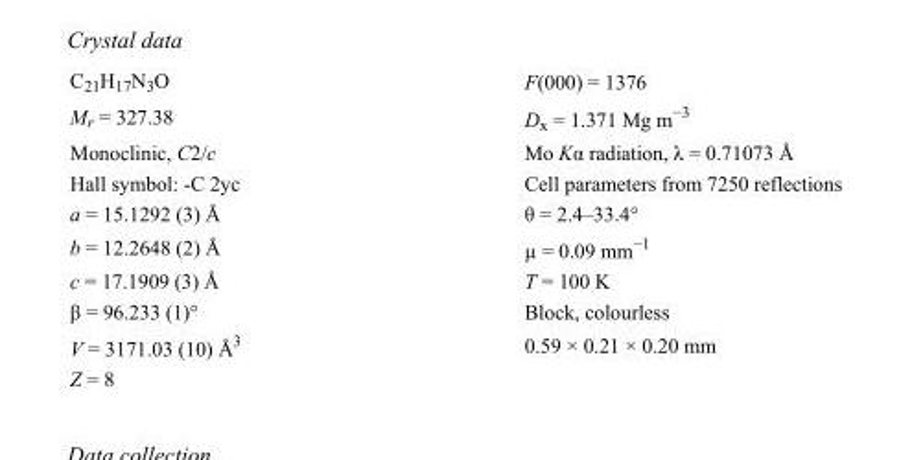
<table><tbody><tr><td>C<sub>21</sub>H<sub>17</sub>N<sub>3</sub>O</td><td>F(000) = 1376</td></tr><tr><td>M<sub>r</sub> = 327.38</td><td>D<sub>x</sub> = 1.371 Mg m<sup>−3</sup></td></tr><tr><td>Monoclinic, C2/c</td><td>Mo Kα radiation, λ = 0.71073 Å</td></tr><tr><td>Hall symbol: -C 2yc</td><td>Cell parameters from 7250 reflections</td></tr><tr><td>a = 15.1292 (3) Å</td><td>θ = 2.4–33.4°</td></tr><tr><td>b = 12.2648 (2) Å</td><td>µ = 0.09 mm<sup>−1</sup></td></tr><tr><td>c = 17.1909 (3) Å</td><td>T = 100 K</td></tr><tr><td>β = 96.233 (1)°</td><td>Block, colourless</td></tr><tr><td>V = 3171.03 (10) Å<sup>3</sup></td><td>0.59 × 0.21 × 0.20 mm</td></tr><tr><td>Z = 8</td><td></td></tr></tbody></table>